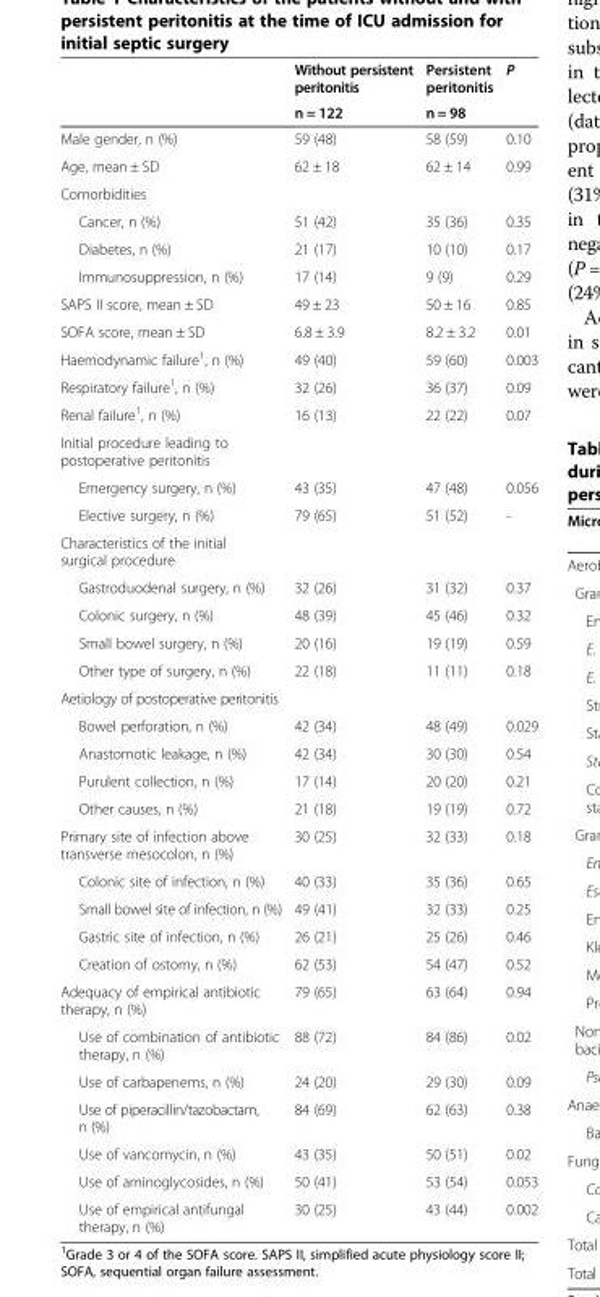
<table><thead><tr><td rowspan="2"></td><td rowspan="2">Without persistent peritonitis n = 122</td><td rowspan="2">Persistent peritonitis n = 98</td><td rowspan="2">P</td></tr><tr></tr></thead><tbody><tr><td>Male gender, n (%)</td><td>59 (48)</td><td>58 (59)</td><td>0.10</td></tr><tr><td>Age, mean ± SD</td><td>62 ± 18</td><td>62 ± 14</td><td>0.99</td></tr><tr><td colspan="4">Comorbidities</td></tr><tr><td>Cancer, n (%)</td><td>51 (42)</td><td>35 (36)</td><td>0.35</td></tr><tr><td>Diabetes, n (%)</td><td>21 (17)</td><td>10 (10)</td><td>0.17</td></tr><tr><td>Immunosuppression, n (%)</td><td>17 (14)</td><td>9 (9)</td><td>0.29</td></tr><tr><td>SAPS II score, mean ± SD</td><td>49 ± 23</td><td>50 ± 16</td><td>0.85</td></tr><tr><td>SOFA score, mean ± SD</td><td>6.8 ± 3.9</td><td>8.2 ± 3.2</td><td>0.01</td></tr><tr><td>Haemodynamic failure<sup>1</sup>, n (%)</td><td>49 (40)</td><td>59 (60)</td><td>0.003</td></tr><tr><td>Respiratory failure<sup>1</sup>, n (%)</td><td>32 (26)</td><td>36 (37)</td><td>0.09</td></tr><tr><td>Renal failure<sup>1</sup>, n (%)</td><td>16 (13)</td><td>22 (22)</td><td>0.07</td></tr><tr><td colspan="4">Initial procedure leading to postoperative peritonitis</td></tr><tr><td>Emergency surgery, n (%)</td><td>43 (35)</td><td>47 (48)</td><td>0.056</td></tr><tr><td>Elective surgery, n (%)</td><td>79 (65)</td><td>51 (52)</td><td>-</td></tr><tr><td colspan="4">Characteristics of the initial surgical procedure</td></tr><tr><td>Gastroduodenal surgery, n (%)</td><td>32 (26)</td><td>31 (32)</td><td>0.37</td></tr><tr><td>Colonic surgery, n (%)</td><td>48 (39)</td><td>45 (46)</td><td>0.32</td></tr><tr><td>Small bowel surgery, n (%)</td><td>20 (16)</td><td>19 (19)</td><td>0.59</td></tr><tr><td>Other type of surgery, n (%)</td><td>22 (18)</td><td>11 (11)</td><td>0.18</td></tr><tr><td colspan="4">Aetiology of postoperative peritonitis</td></tr><tr><td>Bowel perforation, n (%)</td><td>42 (34)</td><td>48 (49)</td><td>0.029</td></tr><tr><td>Anastomotic leakage, n (%)</td><td>42 (34)</td><td>30 (30)</td><td>0.54</td></tr><tr><td>Purulent collection, n (%)</td><td>17 (14)</td><td>20 (20)</td><td>0.21</td></tr><tr><td>Other causes, n (%)</td><td>21 (18)</td><td>19 (19)</td><td>0.72</td></tr><tr><td>Primary site of infection above transverse mesocolon, n (%)</td><td>30 (25)</td><td>32 (33)</td><td>0.18</td></tr><tr><td>Colonic site of infection, n (%)</td><td>40 (33)</td><td>35 (36)</td><td>0.65</td></tr><tr><td>Small bowel site of infection, n (%)</td><td>49 (41)</td><td>32 (33)</td><td>0.25</td></tr><tr><td>Gastric site of infection, n (%)</td><td>26 (21)</td><td>25 (26)</td><td>0.46</td></tr><tr><td>Creation of ostomy, n (%)</td><td>62 (53)</td><td>54 (47)</td><td>0.52</td></tr><tr><td>Adequacy of empirical antibiotic therapy, n (%)</td><td>79 (65)</td><td>63 (64)</td><td>0.94</td></tr><tr><td>Use of combination of antibiotic therapy, n (%)</td><td>88 (72)</td><td>84 (86)</td><td>0.02</td></tr><tr><td>Use of carbapenems, n (%)</td><td>24 (20)</td><td>29 (30)</td><td>0.09</td></tr><tr><td>Use of piperacillin/tazobactam, n (%)</td><td>84 (69)</td><td>62 (63)</td><td>0.38</td></tr><tr><td>Use of vancomycin, n (%)</td><td>43 (35)</td><td>50 (51)</td><td>0.02</td></tr><tr><td>Use of aminoglycosides, n (%)</td><td>50 (41)</td><td>53 (54)</td><td>0.053</td></tr><tr><td>Use of empirical antifungal therapy, n (%)</td><td>30 (25)</td><td>43 (44)</td><td>0.002</td></tr></tbody></table>